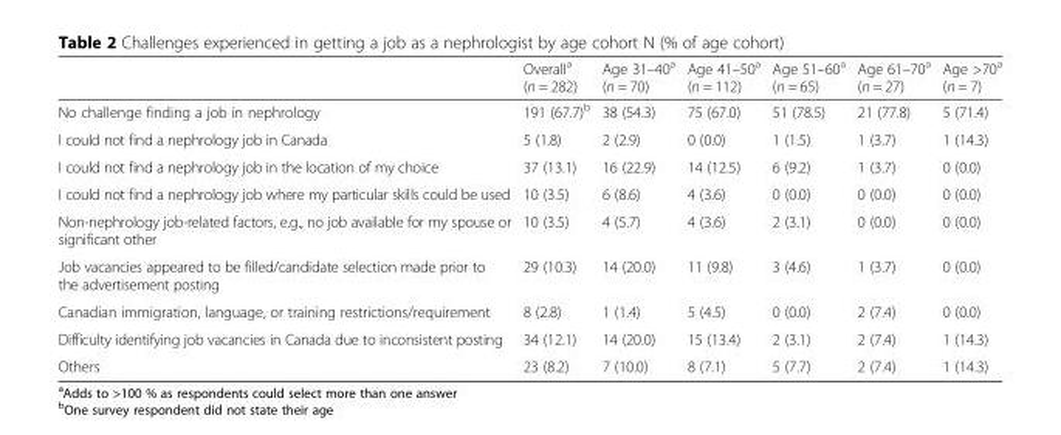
<table><thead><tr><td></td><td>Overall<sup>a</sup> (n = 282)</td><td>Age 31–40<sup>a</sup> (n = 70)</td><td>Age 41–50<sup>a</sup> (n = 112)</td><td>Age 51–60<sup>a</sup> (n = 65)</td><td>Age 61–70<sup>a</sup> (n = 27)</td><td>Age &gt;70<sup>a</sup> (n = 7)</td></tr></thead><tbody><tr><td>No challenge finding a job in nephrology</td><td>191 (67.7)<sup>b</sup></td><td>38 (54.3)</td><td>75 (67.0)</td><td>51 (78.5)</td><td>21 (77.8)</td><td>5 (71.4)</td></tr><tr><td>I could not find a nephrology job in Canada</td><td>5 (1.8)</td><td>2 (2.9)</td><td>0 (0.0)</td><td>1 (1.5)</td><td>1 (3.7)</td><td>1 (14.3)</td></tr><tr><td>I could not find a nephrology job in the location of my choice</td><td>37 (13.1)</td><td>16 (22.9)</td><td>14 (12.5)</td><td>6 (9.2)</td><td>1 (3.7)</td><td>0 (0.0)</td></tr><tr><td>I could not find a nephrology job where my particular skills could be used</td><td>10 (3.5)</td><td>6 (8.6)</td><td>4 (3.6)</td><td>0 (0.0)</td><td>0 (0.0)</td><td>0 (0.0)</td></tr><tr><td>Non-nephrology job-related factors, e.g., no job available for my spouse or significant other</td><td>10 (3.5)</td><td>4 (5.7)</td><td>4 (3.6)</td><td>2 (3.1)</td><td>0 (0.0)</td><td>0 (0.0)</td></tr><tr><td>Job vacancies appeared to be filled/candidate selection made prior to the advertisement posting</td><td>29 (10.3)</td><td>14 (20.0)</td><td>11 (9.8)</td><td>3 (4.6)</td><td>1 (3.7)</td><td>0 (0.0)</td></tr><tr><td>Canadian immigration, language, or training restrictions/requirement</td><td>8 (2.8)</td><td>1 (1.4)</td><td>5 (4.5)</td><td>0 (0.0)</td><td>2 (7.4)</td><td>0 (0.0)</td></tr><tr><td>Difficulty identifying job vacancies in Canada due to inconsistent posting</td><td>34 (12.1)</td><td>14 (20.0)</td><td>15 (13.4)</td><td>2 (3.1)</td><td>2 (7.4)</td><td>1 (14.3)</td></tr><tr><td>Others</td><td>23 (8.2)</td><td>7 (10.0)</td><td>8 (7.1)</td><td>5 (7.7)</td><td>2 (7.4)</td><td>1 (14.3)</td></tr></tbody></table>